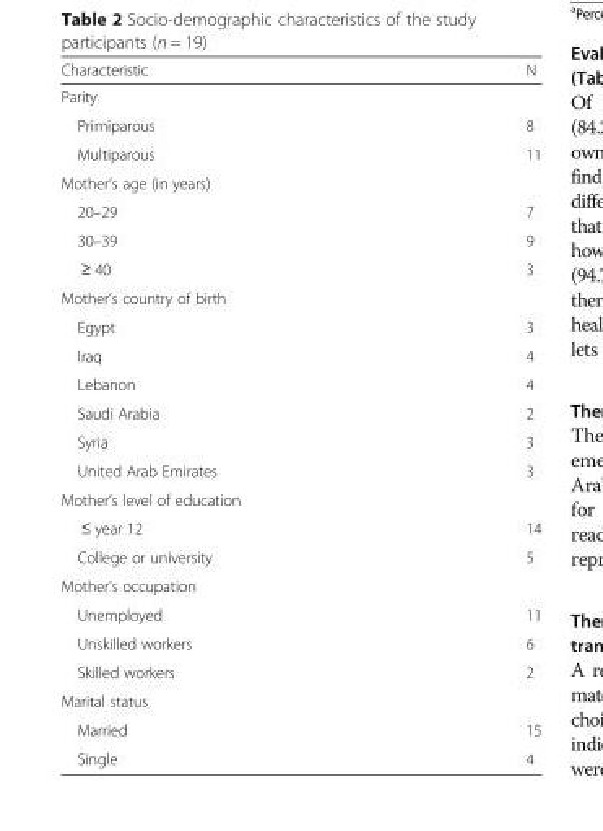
<table><thead><tr><td>Characteristic</td><td>N</td></tr></thead><tbody><tr><td colspan="2">Parity</td></tr><tr><td>Primiparous</td><td>8</td></tr><tr><td>Multiparous</td><td>11</td></tr><tr><td colspan="2">Mother’s age (in years)</td></tr><tr><td>20–29</td><td>7</td></tr><tr><td>30–39</td><td>9</td></tr><tr><td>≥ 40</td><td>3</td></tr><tr><td colspan="2">Mother’s country of birth</td></tr><tr><td>Egypt</td><td>3</td></tr><tr><td>Iraq</td><td>4</td></tr><tr><td>Lebanon</td><td>4</td></tr><tr><td>Saudi Arabia</td><td>2</td></tr><tr><td>Syria</td><td>3</td></tr><tr><td>United Arab Emirates</td><td>3</td></tr><tr><td colspan="2">Mother’s level of education</td></tr><tr><td>≤ year 12</td><td>14</td></tr><tr><td>College or university</td><td>5</td></tr><tr><td colspan="2">Mother’s occupation</td></tr><tr><td>Unemployed</td><td>11</td></tr><tr><td>Unskilled workers</td><td>6</td></tr><tr><td>Skilled workers</td><td>2</td></tr><tr><td colspan="2">Marital status</td></tr><tr><td>Married</td><td>15</td></tr><tr><td>Single</td><td>4</td></tr></tbody></table>